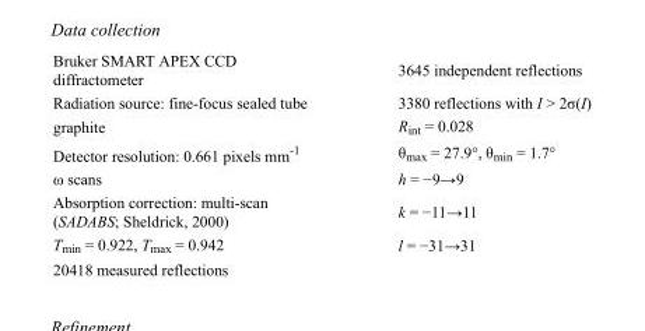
<table><tbody><tr><td>Bruker SMART APEX CCD diffractometer</td><td>3645 independent reflections</td></tr><tr><td>Radiation source: fine-focus sealed tube</td><td>3380 reflections with I &gt; 2σ(I)</td></tr><tr><td>graphite</td><td>R<sub>int</sub> = 0.028</td></tr><tr><td>Detector resolution: 0.661 pixels mm<sup>-1</sup></td><td>θ<sub>max</sub> = 27.9°, θ<sub>min</sub> = 1.7°</td></tr><tr><td>ω scans</td><td>h = −9→9</td></tr><tr><td>Absorption correction: multi-scan (SADABS; Sheldrick, 2000)</td><td>k = −11→11</td></tr><tr><td>T<sub>min</sub> = 0.922, T<sub>max</sub> = 0.942</td><td>l = −31→31</td></tr><tr><td>20418 measured reflections</td><td></td></tr></tbody></table>